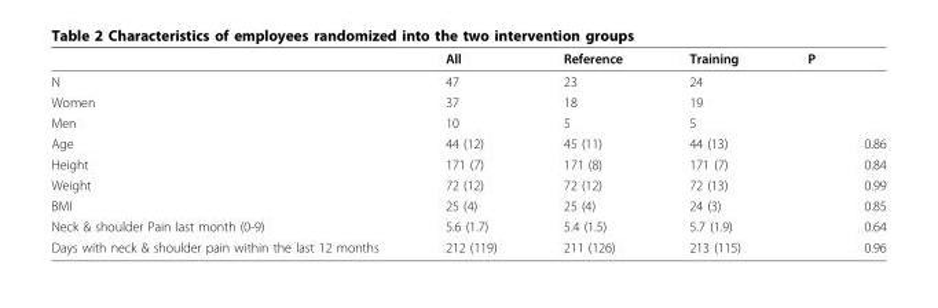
<table><thead><tr><td></td><td>All</td><td>Reference</td><td>Training</td><td>P</td></tr></thead><tbody><tr><td>N</td><td>47</td><td>23</td><td>24</td><td></td></tr><tr><td>Women</td><td>37</td><td>18</td><td>19</td><td></td></tr><tr><td>Men</td><td>10</td><td>5</td><td>5</td><td></td></tr><tr><td>Age</td><td>44 (12)</td><td>45 (11)</td><td>44 (13)</td><td>0.86</td></tr><tr><td>Height</td><td>171 (7)</td><td>171 (8)</td><td>171 (7)</td><td>0.84</td></tr><tr><td>Weight</td><td>72 (12)</td><td>72 (12)</td><td>72 (13)</td><td>0.99</td></tr><tr><td>BMI</td><td>25 (4)</td><td>25 (4)</td><td>24 (3)</td><td>0.85</td></tr><tr><td>Neck &amp; shoulder Pain last month (0-9)</td><td>5.6 (1.7)</td><td>5.4 (1.5)</td><td>5.7 (1.9)</td><td>0.64</td></tr><tr><td>Days with neck &amp; shoulder pain within the last 12 months</td><td>212 (119)</td><td>211 (126)</td><td>213 (115)</td><td>0.96</td></tr></tbody></table>